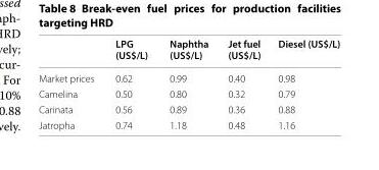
<table><thead><tr><td></td><td>LPG (US$/L)</td><td>Naphtha (US$/L)</td><td>Jet fuel (US$/L)</td><td>Diesel (US$/L)</td></tr></thead><tbody><tr><td>Market prices</td><td>0.62</td><td>0.99</td><td>0.40</td><td>0.98</td></tr><tr><td>Camelina</td><td>0.50</td><td>0.80</td><td>0.32</td><td>0.79</td></tr><tr><td>Carinata</td><td>0.56</td><td>0.89</td><td>0.36</td><td>0.88</td></tr><tr><td>Jatropha</td><td>0.74</td><td>1.18</td><td>0.48</td><td>1.16</td></tr></tbody></table>